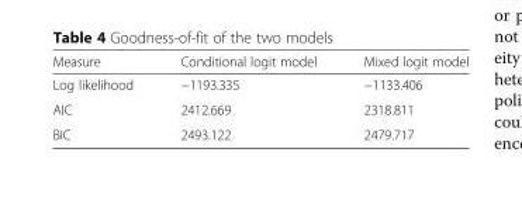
<table><thead><tr><td>Measure</td><td>Conditional logit model</td><td>Mixed logit model</td></tr></thead><tbody><tr><td>Log likelihood</td><td>−1193.335</td><td>−1133.406</td></tr><tr><td>AIC</td><td>2412.669</td><td>2318.811</td></tr><tr><td>BIC</td><td>2493.122</td><td>2479.717</td></tr></tbody></table>